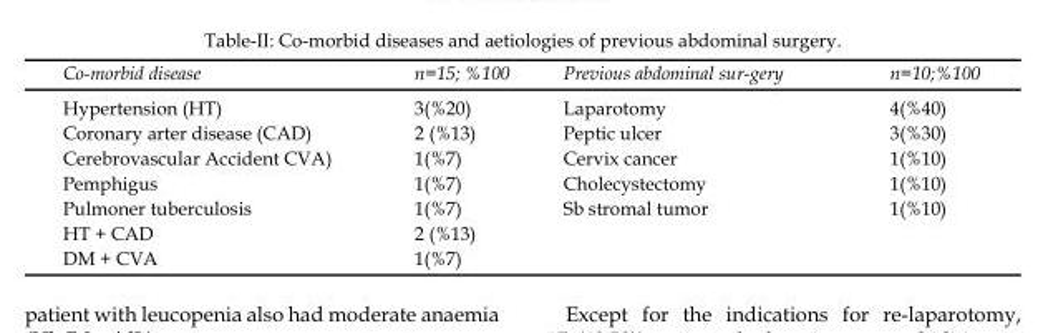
<table><tbody><tr><td>Co-morbid disease</td><td>n=15; %100</td><td>Previous abdominal sur-gery</td><td>n=10;%100</td></tr><tr><td>Hypertension (HT)</td><td>3(%20)</td><td>Laparotomy</td><td>4(%40)</td></tr><tr><td>Coronary arter disease (CAD)</td><td>2 (%13)</td><td>Peptic ulcer</td><td>3(%30)</td></tr><tr><td>Cerebrovascular Accident CVA)</td><td>1(%7)</td><td>Cervix cancer</td><td>1(%10)</td></tr><tr><td>Pemphigus</td><td>1(%7)</td><td>Cholecystectomy</td><td>1(%10)</td></tr><tr><td>Pulmoner tuberculosis</td><td>1(%7)</td><td>Sb stromal tumor</td><td>1(%10)</td></tr><tr><td>HT + CAD</td><td>2 (%13)</td><td></td><td></td></tr><tr><td>DM + CVA</td><td>1(%7)</td><td></td><td></td></tr></tbody></table>